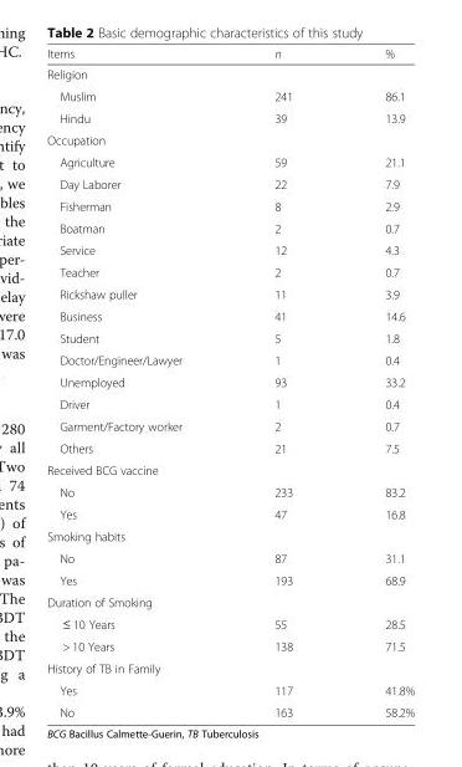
<table><thead><tr><td>Items</td><td>n</td><td>%</td></tr></thead><tbody><tr><td colspan="3">Religion</td></tr><tr><td>Muslim</td><td>241</td><td>86.1</td></tr><tr><td>Hindu</td><td>39</td><td>13.9</td></tr><tr><td colspan="3">Occupation</td></tr><tr><td>Agriculture</td><td>59</td><td>21.1</td></tr><tr><td>Day Laborer</td><td>22</td><td>7.9</td></tr><tr><td>Fisherman</td><td>8</td><td>2.9</td></tr><tr><td>Boatman</td><td>2</td><td>0.7</td></tr><tr><td>Service</td><td>12</td><td>4.3</td></tr><tr><td>Teacher</td><td>2</td><td>0.7</td></tr><tr><td>Rickshaw puller</td><td>11</td><td>3.9</td></tr><tr><td>Business</td><td>41</td><td>14.6</td></tr><tr><td>Student</td><td>5</td><td>1.8</td></tr><tr><td>Doctor/Engineer/Lawyer</td><td>1</td><td>0.4</td></tr><tr><td>Unemployed</td><td>93</td><td>33.2</td></tr><tr><td>Driver</td><td>1</td><td>0.4</td></tr><tr><td>Garment/Factory worker</td><td>2</td><td>0.7</td></tr><tr><td>Others</td><td>21</td><td>7.5</td></tr><tr><td colspan="3">Received BCG vaccine</td></tr><tr><td>No</td><td>233</td><td>83.2</td></tr><tr><td>Yes</td><td>47</td><td>16.8</td></tr><tr><td colspan="3">Smoking habits</td></tr><tr><td>No</td><td>87</td><td>31.1</td></tr><tr><td>Yes</td><td>193</td><td>68.9</td></tr><tr><td colspan="3">Duration of Smoking</td></tr><tr><td>≤ 10 Years</td><td>55</td><td>28.5</td></tr><tr><td>&gt; 10 Years</td><td>138</td><td>71.5</td></tr><tr><td colspan="3">History of TB in Family</td></tr><tr><td>Yes</td><td>117</td><td>41.8%</td></tr><tr><td>No</td><td>163</td><td>58.2%</td></tr></tbody></table>